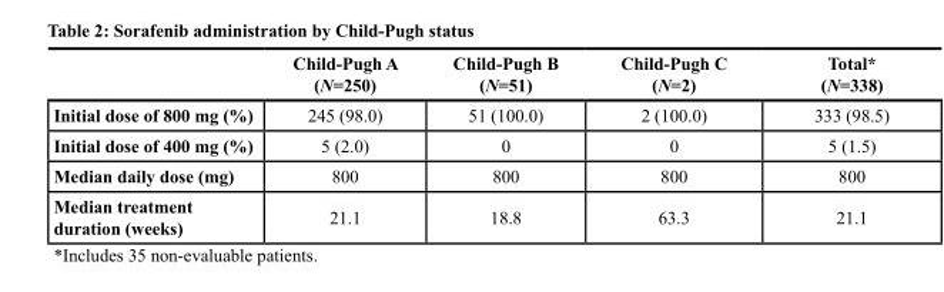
<table><thead><tr><td></td><td>Child-Pugh A (N=250)</td><td>Child-Pugh B (N=51)</td><td>Child-Pugh C (N=2)</td><td>Total* (N=338)</td></tr></thead><tbody><tr><td>Initial dose of 800 mg (%)</td><td>245 (98.0)</td><td>51 (100.0)</td><td>2 (100.0)</td><td>333 (98.5)</td></tr><tr><td>Initial dose of 400 mg (%)</td><td>5 (2.0)</td><td>0</td><td>0</td><td>5 (1.5)</td></tr><tr><td>Median daily dose (mg)</td><td>800</td><td>800</td><td>800</td><td>800</td></tr><tr><td>Median treatment duration (weeks)</td><td>21.1</td><td>18.8</td><td>63.3</td><td>21.1</td></tr></tbody></table>